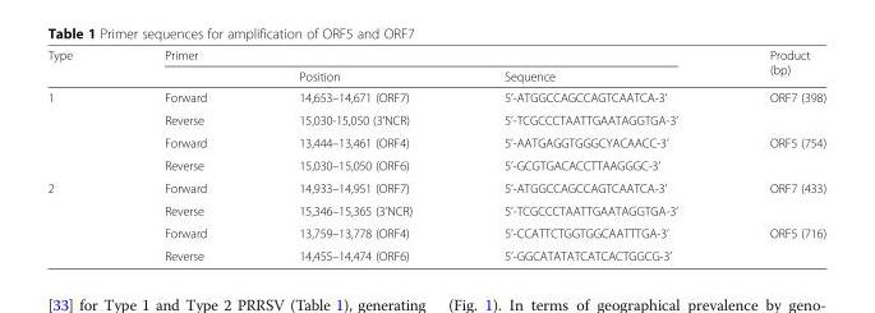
<table><thead><tr><td rowspan="2">Type</td><td colspan="3">Primer</td><td rowspan="2">Product (bp)</td></tr><tr><td></td><td>Position</td><td>Sequence</td></tr></thead><tbody><tr><td rowspan="4">1</td><td>Forward</td><td>14,653–14,671 (ORF7)</td><td>5’-ATGGCCAGCCAGTCAATCA-3’</td><td rowspan="2">ORF7 (398)</td></tr><tr><td>Reverse</td><td>15,030-15,050 (3’NCR)</td><td>5’-TCGCCCTAATTGAATAGGTGA-3’</td></tr><tr><td>Forward</td><td>13,444–13,461 (ORF4)</td><td>5’-AATGAGGTGGGCYACAACC-3’</td><td rowspan="2">ORF5 (754)</td></tr><tr><td>Reverse</td><td>15,030–15,050 (ORF6)</td><td>5’-GCGTGACACCTTAAGGGC-3’</td></tr><tr><td rowspan="4">2</td><td>Forward</td><td>14,933–14,951 (ORF7)</td><td>5’-ATGGCCAGCCAGTCAATCA-3’</td><td rowspan="2">ORF7 (433)</td></tr><tr><td>Reverse</td><td>15,346–15,365 (3’NCR)</td><td>5’-TCGCCCTAATTGAATAGGTGA-3’</td></tr><tr><td>Forward</td><td>13,759–13,778 (ORF4)</td><td>5’-CCATTCTGGTGGCAATTTGA-3’</td><td rowspan="2">ORF5 (716)</td></tr><tr><td>Reverse</td><td>14,455–14,474 (ORF6)</td><td>5’-GGCATATATCATCACTGGCG-3’</td></tr></tbody></table>